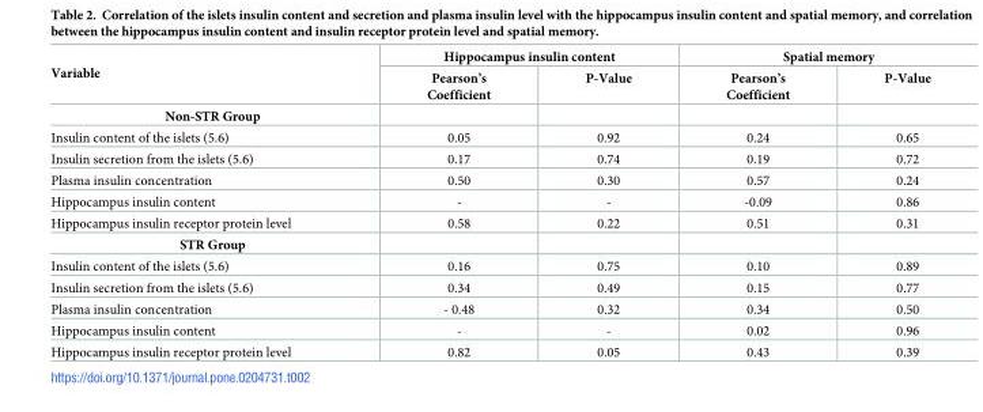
<table><thead><tr><td rowspan="2">Variable</td><td colspan="2">Hippocampus insulin content</td><td colspan="2">Spatial memory</td></tr><tr><td>Pearson’s Coefficient</td><td>P-Value</td><td>Pearson’s Coefficient</td><td>P-Value</td></tr></thead><tbody><tr><td colspan="5">Non-STR Group</td></tr><tr><td>Insulin content of the islets (5.6)</td><td>0.05</td><td>0.92</td><td>0.24</td><td>0.65</td></tr><tr><td>Insulin secretion from the islets (5.6)</td><td>0.17</td><td>0.74</td><td>0.19</td><td>0.72</td></tr><tr><td>Plasma insulin concentration</td><td>0.50</td><td>0.30</td><td>0.57</td><td>0.24</td></tr><tr><td>Hippocampus insulin content</td><td>-</td><td>-</td><td>-0.09</td><td>0.86</td></tr><tr><td>Hippocampus insulin receptor protein level</td><td>0.58</td><td>0.22</td><td>0.51</td><td>0.31</td></tr><tr><td colspan="5">STR Group</td></tr><tr><td>Insulin content of the islets (5.6)</td><td>0.16</td><td>0.75</td><td>0.10</td><td>0.89</td></tr><tr><td>Insulin secretion from the islets (5.6)</td><td>0.34</td><td>0.49</td><td>0.15</td><td>0.77</td></tr><tr><td>Plasma insulin concentration</td><td>- 0.48</td><td>0.32</td><td>0.34</td><td>0.50</td></tr><tr><td>Hippocampus insulin content</td><td>-</td><td>-</td><td>0.02</td><td>0.96</td></tr><tr><td>Hippocampus insulin receptor protein level</td><td>0.82</td><td>0.05</td><td>0.43</td><td>0.39</td></tr></tbody></table>